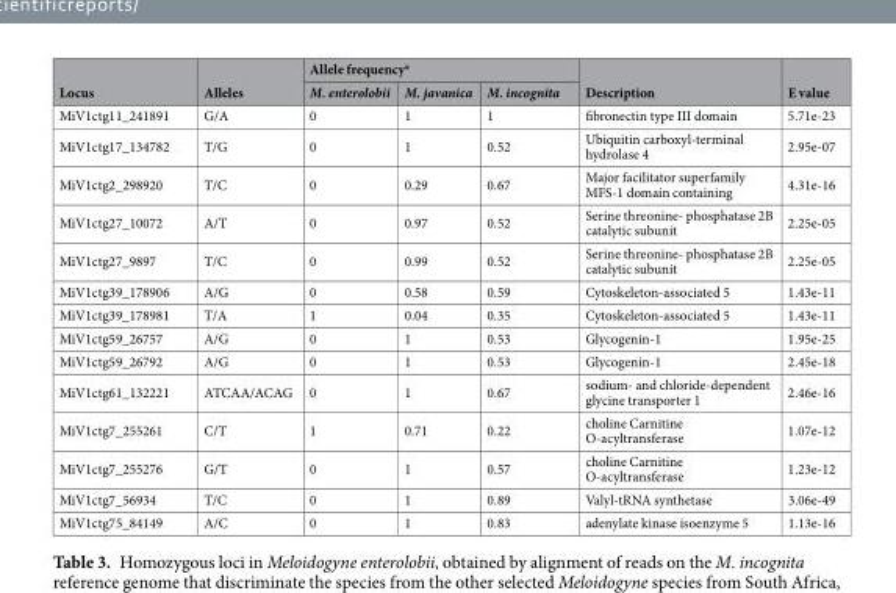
<table><thead><tr><td rowspan="2">Locus</td><td rowspan="2">Alleles</td><td colspan="3">Allele frequency<sup>a</sup></td><td rowspan="2">Description</td><td rowspan="2">E value</td></tr><tr><td>M. enterolobii</td><td>M. javanica</td><td>M. incognita</td></tr></thead><tbody><tr><td>MiV1ctg11_241891</td><td>G/A</td><td>0</td><td>1</td><td>1</td><td>fibronectin type III domain</td><td>5.71e-23</td></tr><tr><td>MiV1ctg17_134782</td><td>T/G</td><td>0</td><td>1</td><td>0.52</td><td>Ubiquitin carboxyl-terminal hydrolase 4</td><td>2.95e-07</td></tr><tr><td>MiV1ctg2_298920</td><td>T/C</td><td>0</td><td>0.29</td><td>0.67</td><td>Major facilitator superfamily MFS-1 domain containing</td><td>4.31e-16</td></tr><tr><td>MiV1ctg27_10072</td><td>A/T</td><td>0</td><td>0.97</td><td>0.52</td><td>Serine threonine- phosphatase 2B catalytic subunit</td><td>2.25e-05</td></tr><tr><td>MiV1ctg27_9897</td><td>T/C</td><td>0</td><td>0.99</td><td>0.52</td><td>Serine threonine- phosphatase 2B catalytic subunit</td><td>2.25e-05</td></tr><tr><td>MiV1ctg39_178906</td><td>A/G</td><td>0</td><td>0.58</td><td>0.59</td><td>Cytoskeleton-associated 5</td><td>1.43e-11</td></tr><tr><td>MiV1ctg39_178981</td><td>T/A</td><td>1</td><td>0.04</td><td>0.35</td><td>Cytoskeleton-associated 5</td><td>1.43e-11</td></tr><tr><td>MiV1ctg59_26757</td><td>A/G</td><td>0</td><td>1</td><td>0.53</td><td>Glycogenin-1</td><td>1.95e-25</td></tr><tr><td>MiV1ctg59_26792</td><td>A/G</td><td>0</td><td>1</td><td>0.53</td><td>Glycogenin-1</td><td>2.45e-18</td></tr><tr><td>MiV1ctg61_132221</td><td>ATCAA/ACAG</td><td>0</td><td>1</td><td>0.67</td><td>sodium- and chloride-dependent glycine transporter 1</td><td>2.46e-16</td></tr><tr><td>MiV1ctg7_255261</td><td>C/T</td><td>1</td><td>0.71</td><td>0.22</td><td>choline Carnitine O-acyltransferase</td><td>1.07e-12</td></tr><tr><td>MiV1ctg7_255276</td><td>G/T</td><td>0</td><td>1</td><td>0.57</td><td>choline Carnitine O-acyltransferase</td><td>1.23e-12</td></tr><tr><td>MiV1ctg7_56934</td><td>T/C</td><td>0</td><td>1</td><td>0.89</td><td>Valyl-tRNA synthetase</td><td>3.06e-49</td></tr><tr><td>MiV1ctg75_84149</td><td>A/C</td><td>0</td><td>1</td><td>0.83</td><td>adenylate kinase isoenzyme 5</td><td>1.13e-16</td></tr></tbody></table>